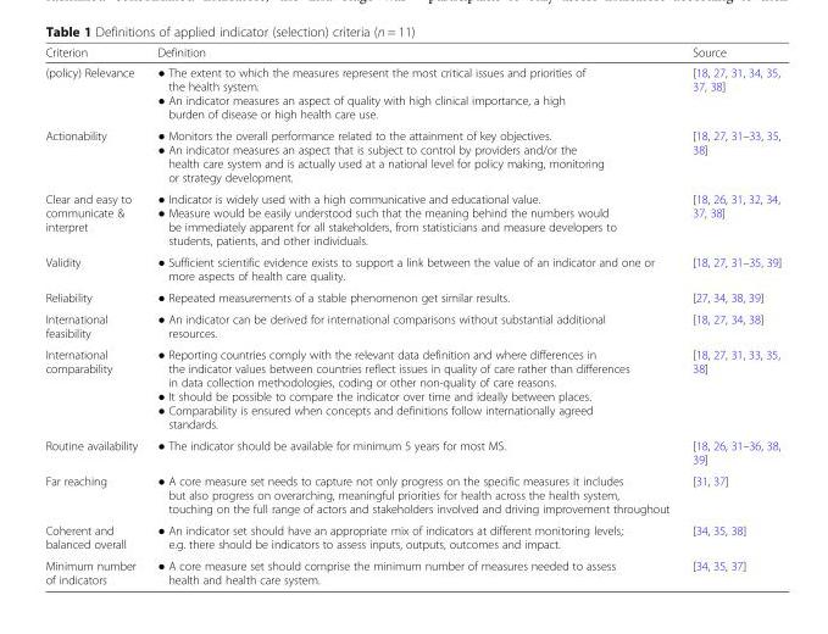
<table><thead><tr><td>Criterion</td><td>Definition</td><td>Source</td></tr></thead><tbody><tr><td>(policy) Relevance</td><td>● The extent to which the measures represent the most critical issues and priorities of the health system. ● An indicator measures an aspect of quality with high clinical importance, a high burden of disease or high health care use.</td><td>[18, 27, 31, 34, 35, 37, 38]</td></tr><tr><td>Actionability</td><td>● Monitors the overall performance related to the attainment of key objectives. ● An indicator measures an aspect that is subject to control by providers and/or the health care system and is actually used at a national level for policy making, monitoring or strategy development.</td><td>[18, 27, 31–33, 35, 38]</td></tr><tr><td>Clear and easy to communicate &amp; interpret</td><td>● Indicator is widely used with a high communicative and educational value. ● Measure would be easily understood such that the meaning behind the numbers would be immediately apparent for all stakeholders, from statisticians and measure developers to students, patients, and other individuals.</td><td>[18, 26, 31, 32, 34, 37, 38]</td></tr><tr><td>Validity</td><td>● Sufficient scientific evidence exists to support a link between the value of an indicator and one or more aspects of health care quality.</td><td>[18, 27, 31–35, 39]</td></tr><tr><td>Reliability</td><td>● Repeated measurements of a stable phenomenon get similar results.</td><td>[27, 34, 38, 39]</td></tr><tr><td>International feasibility</td><td>● An indicator can be derived for international comparisons without substantial additional resources.</td><td>[18, 27, 34, 38]</td></tr><tr><td>International comparability</td><td>● Reporting countries comply with the relevant data definition and where differences in the indicator values between countries reflect issues in quality of care rather than differences in data collection methodologies, coding or other non-quality of care reasons. ● It should be possible to compare the indicator over time and ideally between places. ● Comparability is ensured when concepts and definitions follow internationally agreed standards.</td><td>[18, 27, 31, 33, 35, 38]</td></tr><tr><td>Routine availability</td><td>● The indicator should be available for minimum 5 years for most MS.</td><td>[18, 26, 31–36, 38, 39]</td></tr><tr><td>Far reaching</td><td>● A core measure set needs to capture not only progress on the specific measures it includes but also progress on overarching, meaningful priorities for health across the health system, touching on the full range of actors and stakeholders involved and driving improvement throughout</td><td>[31, 37]</td></tr><tr><td>Coherent and balanced overall</td><td>● An indicator set should have an appropriate mix of indicators at different monitoring levels; e.g. there should be indicators to assess inputs, outputs, outcomes and impact.</td><td>[34, 35, 38]</td></tr><tr><td>Minimum number of indicators</td><td>● A core measure set should comprise the minimum number of measures needed to assess health and health care system.</td><td>[34, 35, 37]</td></tr></tbody></table>